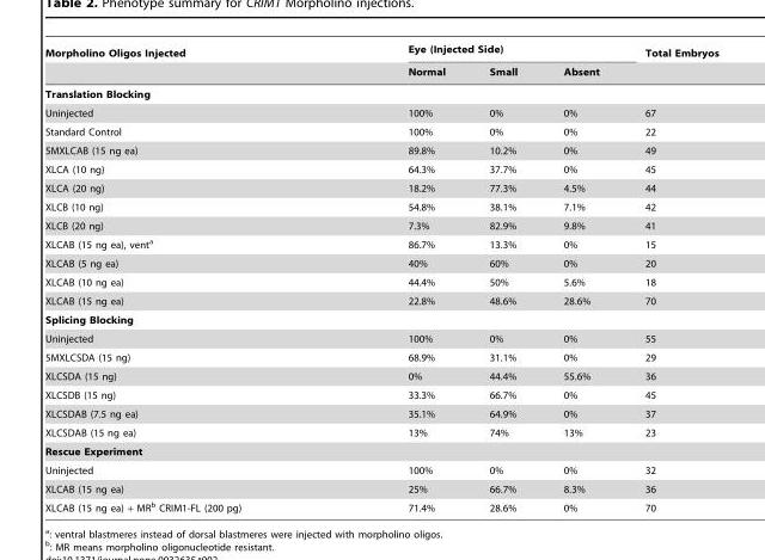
<table><thead><tr><td rowspan="2">Morpholino Oligos Injected</td><td colspan="3">Eye (Injected Side)</td><td rowspan="2">Total Embryos</td></tr><tr><td>Normal</td><td>Small</td><td>Absent</td></tr></thead><tbody><tr><td colspan="5">Translation Blocking</td></tr><tr><td>Uninjected</td><td>100%</td><td>0%</td><td>0%</td><td>67</td></tr><tr><td>Standard Control</td><td>100%</td><td>0%</td><td>0%</td><td>22</td></tr><tr><td>5MXLCAB (15 ng ea)</td><td>89.8%</td><td>10.2%</td><td>0%</td><td>49</td></tr><tr><td>XLCA (10 ng)</td><td>64.3%</td><td>37.7%</td><td>0%</td><td>45</td></tr><tr><td>XLCA (20 ng)</td><td>18.2%</td><td>77.3%</td><td>4.5%</td><td>44</td></tr><tr><td>XLCB (10 ng)</td><td>54.8%</td><td>38.1%</td><td>7.1%</td><td>42</td></tr><tr><td>XLCB (20 ng)</td><td>7.3%</td><td>82.9%</td><td>9.8%</td><td>41</td></tr><tr><td>XLCAB (15 ng ea), vent<sup>a</sup></td><td>86.7%</td><td>13.3%</td><td>0%</td><td>15</td></tr><tr><td>XLCAB (5 ng ea)</td><td>40%</td><td>60%</td><td>0%</td><td>20</td></tr><tr><td>XLCAB (10 ng ea)</td><td>44.4%</td><td>50%</td><td>5.6%</td><td>18</td></tr><tr><td>XLCAB (15 ng ea)</td><td>22.8%</td><td>48.6%</td><td>28.6%</td><td>70</td></tr><tr><td colspan="5">Splicing Blocking</td></tr><tr><td>Uninjected</td><td>100%</td><td>0%</td><td>0%</td><td>55</td></tr><tr><td>5MXLCSDA (15 ng)</td><td>68.9%</td><td>31.1%</td><td>0%</td><td>29</td></tr><tr><td>XLCSDA (15 ng)</td><td>0%</td><td>44.4%</td><td>55.6%</td><td>36</td></tr><tr><td>XLCSDB (15 ng)</td><td>33.3%</td><td>66.7%</td><td>0%</td><td>45</td></tr><tr><td>XLCSDAB (7.5 ng ea)</td><td>35.1%</td><td>64.9%</td><td>0%</td><td>37</td></tr><tr><td>XLCSDAB (15 ng ea)</td><td>13%</td><td>74%</td><td>13%</td><td>23</td></tr><tr><td colspan="5">Rescue Experiment</td></tr><tr><td>Uninjected</td><td>100%</td><td>0%</td><td>0%</td><td>32</td></tr><tr><td>XLCAB (15 ng ea)</td><td>25%</td><td>66.7%</td><td>8.3%</td><td>36</td></tr><tr><td>XLCAB (15 ng ea) + MR<sup>b</sup> CRIM1-FL (200 pg)</td><td>71.4%</td><td>28.6%</td><td>0%</td><td>70</td></tr></tbody></table>